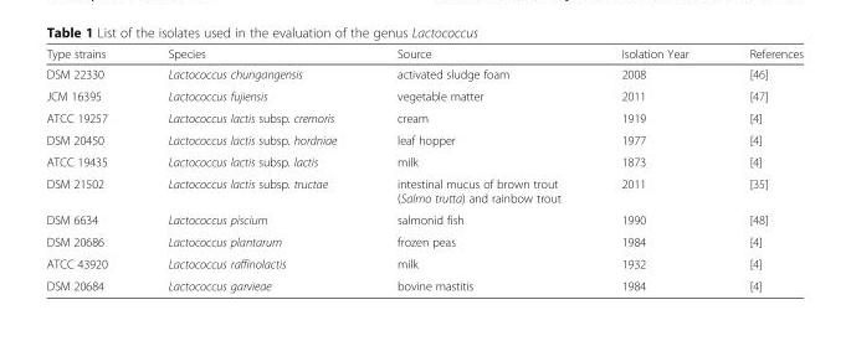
<table><thead><tr><td>Type strains</td><td>Species</td><td>Source</td><td>Isolation Year</td><td>References</td></tr></thead><tbody><tr><td>DSM 22330</td><td>Lactococcus chungangensis</td><td>activated sludge foam</td><td>2008</td><td>[46]</td></tr><tr><td>JCM 16395</td><td>Lactococcus fujiensis</td><td>vegetable matter</td><td>2011</td><td>[47]</td></tr><tr><td>ATCC 19257</td><td>Lactococcus lactis subsp. cremoris</td><td>cream</td><td>1919</td><td>[4]</td></tr><tr><td>DSM 20450</td><td>Lactococcus lactis subsp. hordniae</td><td>leaf hopper</td><td>1977</td><td>[4]</td></tr><tr><td>ATCC 19435</td><td>Lactococcus lactis subsp. lactis</td><td>milk</td><td>1873</td><td>[4]</td></tr><tr><td>DSM 21502</td><td>Lactococcus lactis subsp. tructae</td><td>intestinal mucus of brown trout (Salmo trutta) and rainbow trout</td><td>2011</td><td>[35]</td></tr><tr><td>DSM 6634</td><td>Lactococcus piscium</td><td>salmonid fish</td><td>1990</td><td>[48]</td></tr><tr><td>DSM 20686</td><td>Lactococcus plantarum</td><td>frozen peas</td><td>1984</td><td>[4]</td></tr><tr><td>ATCC 43920</td><td>Lactococcus raffinolactis</td><td>milk</td><td>1932</td><td>[4]</td></tr><tr><td>DSM 20684</td><td>Lactococcus garvieae</td><td>bovine mastitis</td><td>1984</td><td>[4]</td></tr></tbody></table>